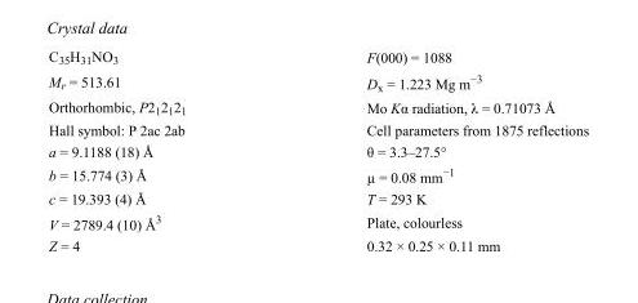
<table><tbody><tr><td>C<sub>35</sub>H<sub>31</sub>NO<sub>3</sub></td><td>F(000) = 1088</td></tr><tr><td>M<sub>r</sub> = 513.61</td><td>D<sub>x</sub> = 1.223 Mg m<sup>−3</sup></td></tr><tr><td>Orthorhombic, P2<sub>1</sub>2<sub>1</sub>2<sub>1</sub></td><td>Mo Kα radiation, λ = 0.71073 Å</td></tr><tr><td>Hall symbol: P 2ac 2ab</td><td>Cell parameters from 1875 reflections</td></tr><tr><td>a = 9.1188 (18) Å</td><td>θ = 3.3–27.5°</td></tr><tr><td>b = 15.774 (3) Å</td><td>µ = 0.08 mm<sup>−1</sup></td></tr><tr><td>c = 19.393 (4) Å</td><td>T = 293 K</td></tr><tr><td>V = 2789.4 (10) Å<sup>3</sup></td><td>Plate, colourless</td></tr><tr><td>Z = 4</td><td>0.32 × 0.25 × 0.11 mm</td></tr></tbody></table>